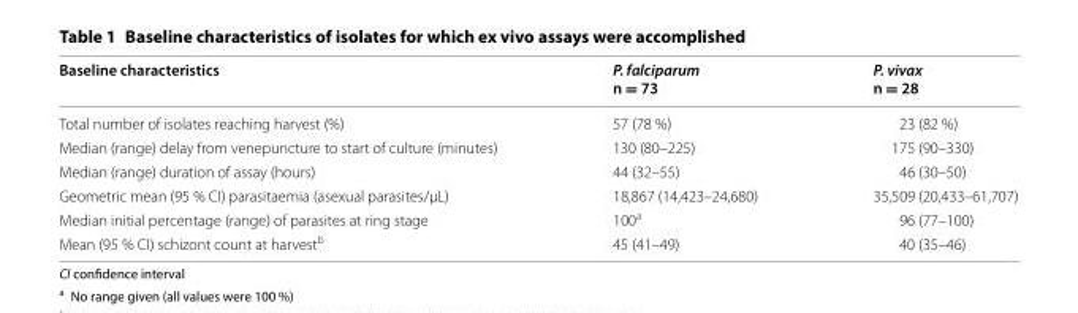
<table><thead><tr><td>Baseline characteristics</td><td>P. falciparum n = 73</td><td>P. vivax n = 28</td></tr></thead><tbody><tr><td>Total number of isolates reaching harvest (%)</td><td>57 (78 %)</td><td>23 (82 %)</td></tr><tr><td>Median (range) delay from venepuncture to start of culture (minutes)</td><td>130 (80–225)</td><td>175 (90–330)</td></tr><tr><td>Median (range) duration of assay (hours)</td><td>44 (32–55)</td><td>46 (30–50)</td></tr><tr><td>Geometric mean (95 % CI) parasitaemia (asexual parasites/µL)</td><td>18,867 (14,423–24,680)</td><td>35,509 (20,433–61,707)</td></tr><tr><td>Median initial percentage (range) of parasites at ring stage</td><td>100<sup>a</sup></td><td>96 (77–100)</td></tr><tr><td>Mean (95 % CI) schizont count at harvest<sup>b</sup></td><td>45 (41–49)</td><td>40 (35–46)</td></tr></tbody></table>